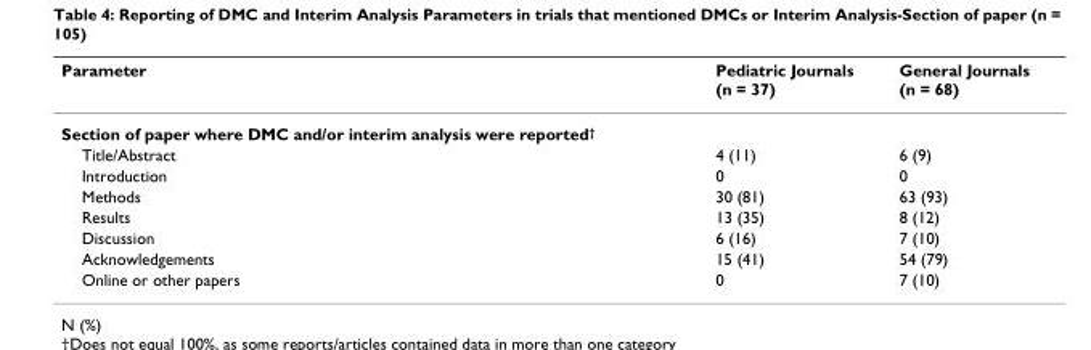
<table><thead><tr><td>Parameter</td><td>Pediatric Journals (n = 37)</td><td>General Journals (n = 68)</td></tr></thead><tbody><tr><td colspan="3">Section of paper where DMC and/or interim analysis were reported<sup>†</sup></td></tr><tr><td>Title/Abstract</td><td>4 (11)</td><td>6 (9)</td></tr><tr><td>Introduction</td><td>0</td><td>0</td></tr><tr><td>Methods</td><td>30 (81)</td><td>63 (93)</td></tr><tr><td>Results</td><td>13 (35)</td><td>8 (12)</td></tr><tr><td>Discussion</td><td>6 (16)</td><td>7 (10)</td></tr><tr><td>Acknowledgements</td><td>15 (41)</td><td>54 (79)</td></tr><tr><td>Online or other papers</td><td>0</td><td>7 (10)</td></tr></tbody></table>